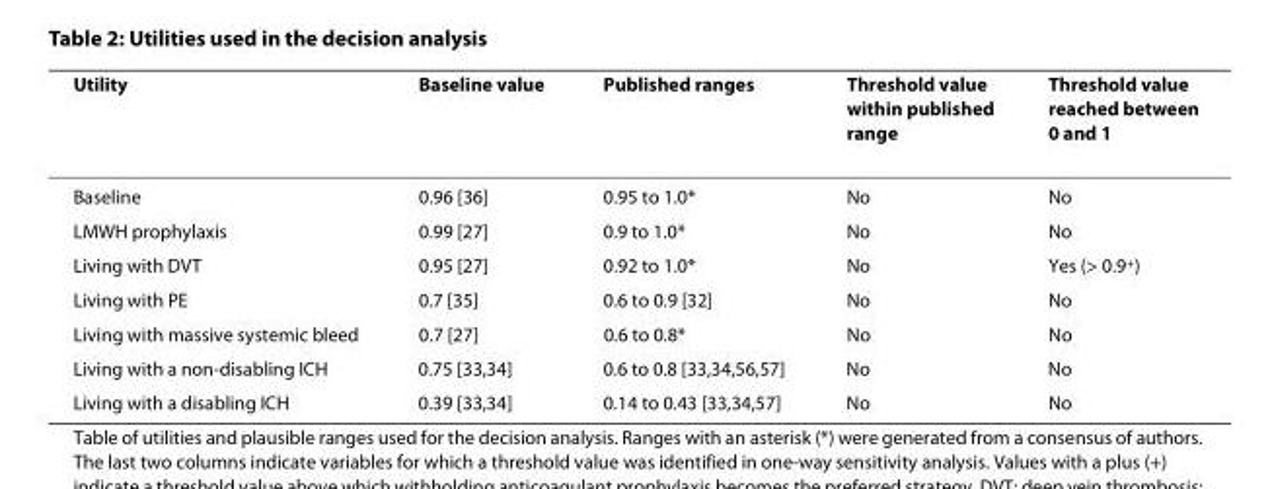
<table><thead><tr><td>Utility</td><td>Baseline value</td><td>Published ranges</td><td>Threshold value within published range</td><td>Threshold value reached between 0 and 1</td></tr></thead><tbody><tr><td>Baseline</td><td>0.96 [36]</td><td>0.95 to 1.0*</td><td>No</td><td>No</td></tr><tr><td>LMWH prophylaxis</td><td>0.99 [27]</td><td>0.9 to 1.0*</td><td>No</td><td>No</td></tr><tr><td>Living with DVT</td><td>0.95 [27]</td><td>0.92 to 1.0*</td><td>No</td><td>Yes (&gt; 0.9<sup>+</sup>)</td></tr><tr><td>Living with PE</td><td>0.7 [35]</td><td>0.6 to 0.9 [32]</td><td>No</td><td>No</td></tr><tr><td>Living with massive systemic bleed</td><td>0.7 [27]</td><td>0.6 to 0.8*</td><td>No</td><td>No</td></tr><tr><td>Living with a non-disabling ICH</td><td>0.75 [33,34]</td><td>0.6 to 0.8 [33,34,56,57]</td><td>No</td><td>No</td></tr><tr><td>Living with a disabling ICH</td><td>0.39 [33,34]</td><td>0.14 to 0.43 [33,34,57]</td><td>No</td><td>No</td></tr></tbody></table>